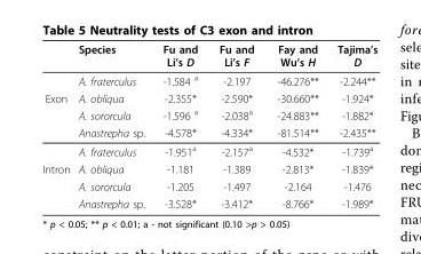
<table><thead><tr><td></td><td>Species</td><td>Fu and Li’s D</td><td>Fu and Li’s F</td><td>Fay and Wu’s H</td><td>Tajima’s D</td></tr></thead><tbody><tr><td></td><td>A. fraterculus</td><td>-1.584 <sup>a</sup></td><td>-2.197</td><td>-46.276**</td><td>-2.244**</td></tr><tr><td rowspan="4">Exon</td><td>A. obliqua</td><td>-2.355*</td><td>-2.590*</td><td>-30.660**</td><td>-1.924*</td></tr><tr><td>A. sororcula</td><td>-1.596 <sup>a</sup></td><td>-2.038<sup>a</sup></td><td>-24.883**</td><td>-1.882*</td></tr><tr><td>Anastrepha sp.</td><td>-4.578*</td><td>-4.334*</td><td>-81.514**</td><td>-2.435**</td></tr><tr><td>A. fraterculus</td><td>-1.951<sup>a</sup></td><td>-2.157<sup>a</sup></td><td>-4.532*</td><td>-1.739<sup>a</sup></td></tr><tr><td rowspan="3">Intron</td><td>A. obliqua</td><td>-1.181</td><td>-1.389</td><td>-2.813*</td><td>-1.839*</td></tr><tr><td>A. sororcula</td><td>-1.205</td><td>-1.497</td><td>-2.164</td><td>-1.476</td></tr><tr><td>Anastrepha sp.</td><td>-3.528*</td><td>-3.412*</td><td>-8.766*</td><td>-1.989*</td></tr></tbody></table>